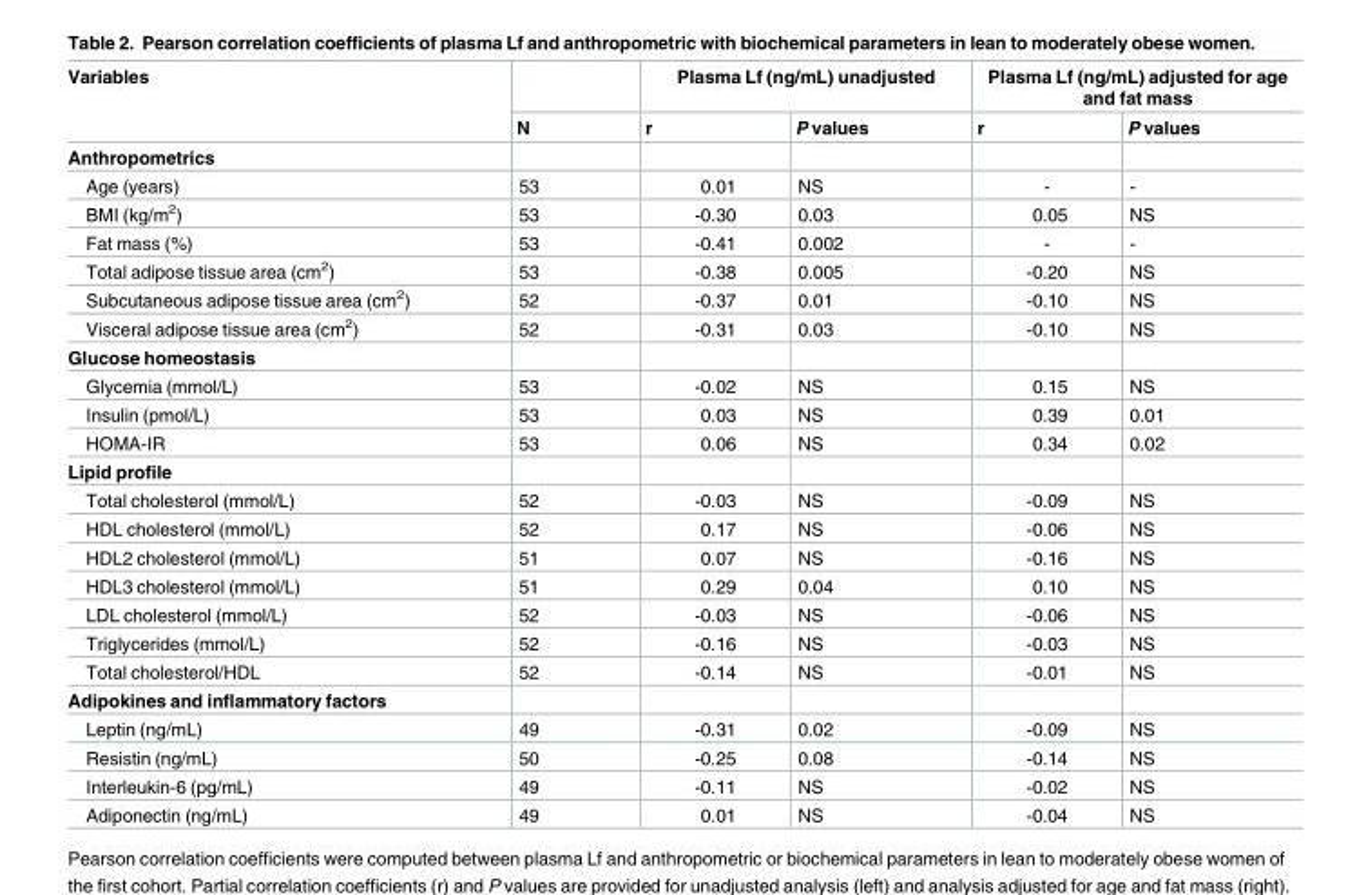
<table><thead><tr><td rowspan="2">Variables</td><td rowspan="2">N</td><td colspan="2">Plasma Lf (ng/mL) unadjusted</td><td colspan="2">Plasma Lf (ng/mL) adjusted for age and fat mass</td></tr><tr><td>r</td><td>P values</td><td>r</td><td>P values</td></tr></thead><tbody><tr><td colspan="6">Anthropometrics</td></tr><tr><td>Age (years)</td><td>53</td><td>0.01</td><td>NS</td><td>-</td><td>-</td></tr><tr><td>BMI (kg/m<sup>2</sup>)</td><td>53</td><td>-0.30</td><td>0.03</td><td>0.05</td><td>NS</td></tr><tr><td>Fat mass (%)</td><td>53</td><td>-0.41</td><td>0.002</td><td>-</td><td>-</td></tr><tr><td>Total adipose tissue area (cm<sup>2</sup>)</td><td>53</td><td>-0.38</td><td>0.005</td><td>-0.20</td><td>NS</td></tr><tr><td>Subcutaneous adipose tissue area (cm<sup>2</sup>)</td><td>52</td><td>-0.37</td><td>0.01</td><td>-0.10</td><td>NS</td></tr><tr><td>Visceral adipose tissue area (cm<sup>2</sup>)</td><td>52</td><td>-0.31</td><td>0.03</td><td>-0.10</td><td>NS</td></tr><tr><td colspan="6">Glucose homeostasis</td></tr><tr><td>Glycemia (mmol/L)</td><td>53</td><td>-0.02</td><td>NS</td><td>0.15</td><td>NS</td></tr><tr><td>Insulin (pmol/L)</td><td>53</td><td>0.03</td><td>NS</td><td>0.39</td><td>0.01</td></tr><tr><td>HOMA-IR</td><td>53</td><td>0.06</td><td>NS</td><td>0.34</td><td>0.02</td></tr><tr><td colspan="6">Lipid profile</td></tr><tr><td>Total cholesterol (mmol/L)</td><td>52</td><td>-0.03</td><td>NS</td><td>-0.09</td><td>NS</td></tr><tr><td>HDL cholesterol (mmol/L)</td><td>52</td><td>0.17</td><td>NS</td><td>-0.06</td><td>NS</td></tr><tr><td>HDL2 cholesterol (mmol/L)</td><td>51</td><td>0.07</td><td>NS</td><td>-0.16</td><td>NS</td></tr><tr><td>HDL3 cholesterol (mmol/L)</td><td>51</td><td>0.29</td><td>0.04</td><td>0.10</td><td>NS</td></tr><tr><td>LDL cholesterol (mmol/L)</td><td>52</td><td>-0.03</td><td>NS</td><td>-0.06</td><td>NS</td></tr><tr><td>Triglycerides (mmol/L)</td><td>52</td><td>-0.16</td><td>NS</td><td>-0.03</td><td>NS</td></tr><tr><td>Total cholesterol/HDL</td><td>52</td><td>-0.14</td><td>NS</td><td>-0.01</td><td>NS</td></tr><tr><td colspan="6">Adipokines and inflammatory factors</td></tr><tr><td>Leptin (ng/mL)</td><td>49</td><td>-0.31</td><td>0.02</td><td>-0.09</td><td>NS</td></tr><tr><td>Resistin (ng/mL)</td><td>50</td><td>-0.25</td><td>0.08</td><td>-0.14</td><td>NS</td></tr><tr><td>Interleukin-6 (pg/mL)</td><td>49</td><td>-0.11</td><td>NS</td><td>-0.02</td><td>NS</td></tr><tr><td>Adiponectin (ng/mL)</td><td>49</td><td>0.01</td><td>NS</td><td>-0.04</td><td>NS</td></tr></tbody></table>